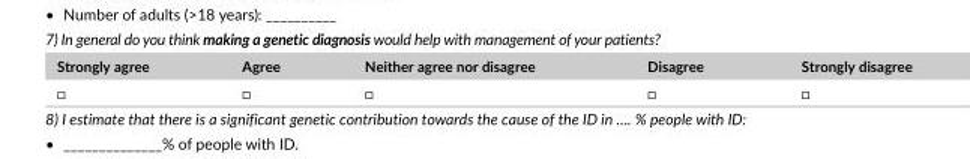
<table><thead><tr><td>Strongly agree</td><td>Agree</td><td>Neither agree nor disagree</td><td>Disagree</td><td>Strongly disagree</td></tr></thead><tbody><tr><td>□</td><td>□</td><td>□</td><td>□</td><td>□</td></tr></tbody></table>